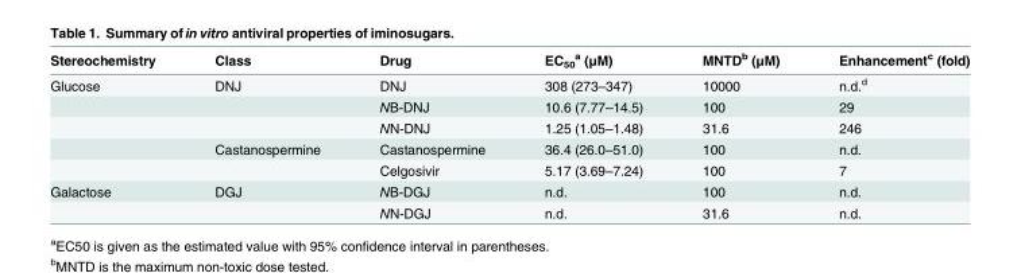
<table><thead><tr><td>Stereochemistry</td><td>Class</td><td>Drug</td><td>EC<sub>50</sub> <sup>a</sup> (μM)</td><td>MNTD<sup>b</sup> (μM)</td><td>Enhancement<sup>c</sup> (fold)</td></tr></thead><tbody><tr><td rowspan="5">Glucose</td><td>DNJ</td><td>DNJ</td><td>308 (273–347)</td><td>10000</td><td>n.d.<sup>d</sup></td></tr><tr><td></td><td>NB-DNJ</td><td>10.6 (7.77–14.5)</td><td>100</td><td>29</td></tr><tr><td></td><td>NN-DNJ</td><td>1.25 (1.05–1.48)</td><td>31.6</td><td>246</td></tr><tr><td>Castanospermine</td><td>Castanospermine</td><td>36.4 (26.0–51.0)</td><td>100</td><td>n.d.</td></tr><tr><td></td><td>Celgosivir</td><td>5.17 (3.69–7.24)</td><td>100</td><td>7</td></tr><tr><td rowspan="2">Galactose</td><td>DGJ</td><td>NB-DGJ</td><td>n.d.</td><td>100</td><td>n.d.</td></tr><tr><td></td><td>NN-DGJ</td><td>n.d.</td><td>31.6</td><td>n.d.</td></tr></tbody></table>